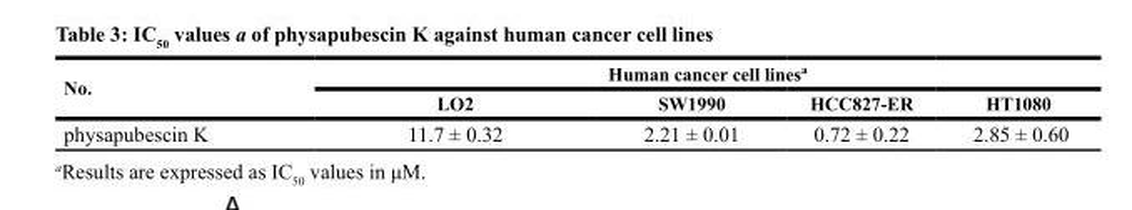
<table><thead><tr><td rowspan="2">No.</td><td colspan="4">Human cancer cell lines<sup>a</sup></td></tr><tr><td>LO2</td><td>SW1990</td><td>HCC827-ER</td><td>HT1080</td></tr></thead><tbody><tr><td>physapubescin K</td><td>11.7 ± 0.32</td><td>2.21 ± 0.01</td><td>0.72 ± 0.22</td><td>2.85 ± 0.60</td></tr></tbody></table>